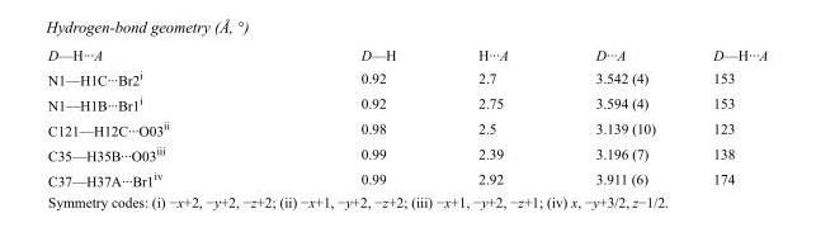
<table><tbody><tr><td>D—H···A</td><td>D—H</td><td>H···A</td><td>D···A</td><td>D—H···A</td></tr><tr><td>N1—H1C···Br2<sup>i</sup></td><td>0.92</td><td>2.7</td><td>3.542 (4)</td><td>153</td></tr><tr><td>N1—H1B···Br1<sup>i</sup></td><td>0.92</td><td>2.75</td><td>3.594 (4)</td><td>153</td></tr><tr><td>C121—H12C···O03<sup>ii</sup></td><td>0.98</td><td>2.5</td><td>3.139 (10)</td><td>123</td></tr><tr><td>C35—H35B···O03<sup>iii</sup></td><td>0.99</td><td>2.39</td><td>3.196 (7)</td><td>138</td></tr><tr><td>C37—H37A···Br1<sup>iv</sup></td><td>0.99</td><td>2.92</td><td>3.911 (6)</td><td>174</td></tr></tbody></table>